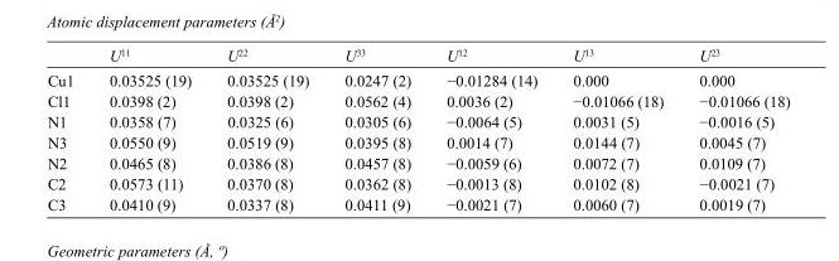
<table><thead><tr><td></td><td>U<sup>11</sup></td><td>U<sup>22</sup></td><td>U<sup>33</sup></td><td>U<sup>12</sup></td><td>U<sup>13</sup></td><td>U<sup>23</sup></td></tr></thead><tbody><tr><td>Cu1</td><td>0.03525 (19)</td><td>0.03525 (19)</td><td>0.0247 (2)</td><td>−0.01284 (14)</td><td>0.000</td><td>0.000</td></tr><tr><td>Cl1</td><td>0.0398 (2)</td><td>0.0398 (2)</td><td>0.0562 (4)</td><td>0.0036 (2)</td><td>−0.01066 (18)</td><td>−0.01066 (18)</td></tr><tr><td>N1</td><td>0.0358 (7)</td><td>0.0325 (6)</td><td>0.0305 (6)</td><td>−0.0064 (5)</td><td>0.0031 (5)</td><td>−0.0016 (5)</td></tr><tr><td>N3</td><td>0.0550 (9)</td><td>0.0519 (9)</td><td>0.0395 (8)</td><td>0.0014 (7)</td><td>0.0144 (7)</td><td>0.0045 (7)</td></tr><tr><td>N2</td><td>0.0465 (8)</td><td>0.0386 (8)</td><td>0.0457 (8)</td><td>−0.0059 (6)</td><td>0.0072 (7)</td><td>0.0109 (7)</td></tr><tr><td>C2</td><td>0.0573 (11)</td><td>0.0370 (8)</td><td>0.0362 (8)</td><td>−0.0013 (8)</td><td>0.0102 (8)</td><td>−0.0021 (7)</td></tr><tr><td>C3</td><td>0.0410 (9)</td><td>0.0337 (8)</td><td>0.0411 (9)</td><td>−0.0021 (7)</td><td>0.0060 (7)</td><td>0.0019 (7)</td></tr></tbody></table>